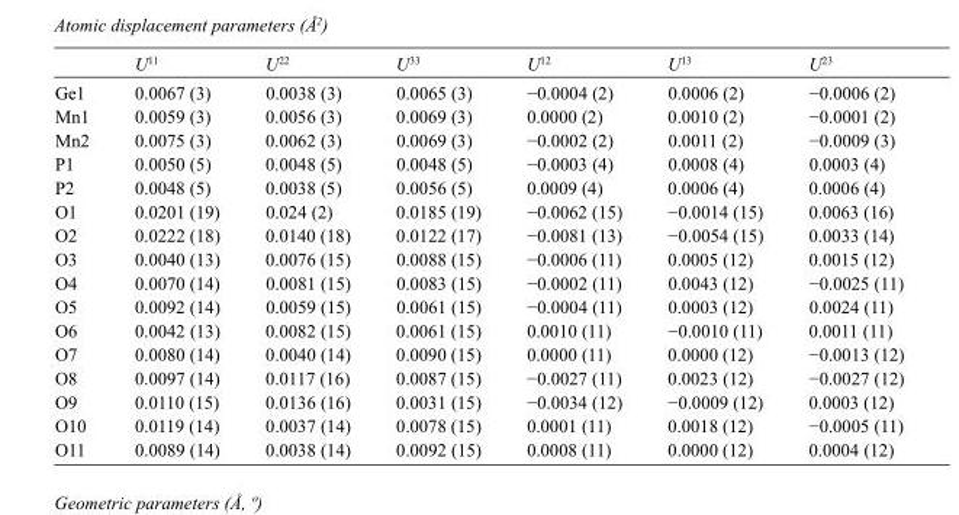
<table><thead><tr><td></td><td>U<sup>11</sup></td><td>U<sup>22</sup></td><td>U<sup>33</sup></td><td>U<sup>12</sup></td><td>U<sup>13</sup></td><td>U<sup>23</sup></td></tr></thead><tbody><tr><td>Ge1</td><td>0.0067 (3)</td><td>0.0038 (3)</td><td>0.0065 (3)</td><td>−0.0004 (2)</td><td>0.0006 (2)</td><td>−0.0006 (2)</td></tr><tr><td>Mn1</td><td>0.0059 (3)</td><td>0.0056 (3)</td><td>0.0069 (3)</td><td>0.0000 (2)</td><td>0.0010 (2)</td><td>−0.0001 (2)</td></tr><tr><td>Mn2</td><td>0.0075 (3)</td><td>0.0062 (3)</td><td>0.0069 (3)</td><td>−0.0002 (2)</td><td>0.0011 (2)</td><td>−0.0009 (3)</td></tr><tr><td>P1</td><td>0.0050 (5)</td><td>0.0048 (5)</td><td>0.0048 (5)</td><td>−0.0003 (4)</td><td>0.0008 (4)</td><td>0.0003 (4)</td></tr><tr><td>P2</td><td>0.0048 (5)</td><td>0.0038 (5)</td><td>0.0056 (5)</td><td>0.0009 (4)</td><td>0.0006 (4)</td><td>0.0006 (4)</td></tr><tr><td>O1</td><td>0.0201 (19)</td><td>0.024 (2)</td><td>0.0185 (19)</td><td>−0.0062 (15)</td><td>−0.0014 (15)</td><td>0.0063 (16)</td></tr><tr><td>O2</td><td>0.0222 (18)</td><td>0.0140 (18)</td><td>0.0122 (17)</td><td>−0.0081 (13)</td><td>−0.0054 (15)</td><td>0.0033 (14)</td></tr><tr><td>O3</td><td>0.0040 (13)</td><td>0.0076 (15)</td><td>0.0088 (15)</td><td>−0.0006 (11)</td><td>0.0005 (12)</td><td>0.0015 (12)</td></tr><tr><td>O4</td><td>0.0070 (14)</td><td>0.0081 (15)</td><td>0.0083 (15)</td><td>−0.0002 (11)</td><td>0.0043 (12)</td><td>−0.0025 (11)</td></tr><tr><td>O5</td><td>0.0092 (14)</td><td>0.0059 (15)</td><td>0.0061 (15)</td><td>−0.0004 (11)</td><td>0.0003 (12)</td><td>0.0024 (11)</td></tr><tr><td>O6</td><td>0.0042 (13)</td><td>0.0082 (15)</td><td>0.0061 (15)</td><td>0.0010 (11)</td><td>−0.0010 (11)</td><td>0.0011 (11)</td></tr><tr><td>O7</td><td>0.0080 (14)</td><td>0.0040 (14)</td><td>0.0090 (15)</td><td>0.0000 (11)</td><td>0.0000 (12)</td><td>−0.0013 (12)</td></tr><tr><td>O8</td><td>0.0097 (14)</td><td>0.0117 (16)</td><td>0.0087 (15)</td><td>−0.0027 (11)</td><td>0.0023 (12)</td><td>−0.0027 (12)</td></tr><tr><td>O9</td><td>0.0110 (15)</td><td>0.0136 (16)</td><td>0.0031 (15)</td><td>−0.0034 (12)</td><td>−0.0009 (12)</td><td>0.0003 (12)</td></tr><tr><td>O10</td><td>0.0119 (14)</td><td>0.0037 (14)</td><td>0.0078 (15)</td><td>0.0001 (11)</td><td>0.0018 (12)</td><td>−0.0005 (11)</td></tr><tr><td>O11</td><td>0.0089 (14)</td><td>0.0038 (14)</td><td>0.0092 (15)</td><td>0.0008 (11)</td><td>0.0000 (12)</td><td>0.0004 (12)</td></tr></tbody></table>